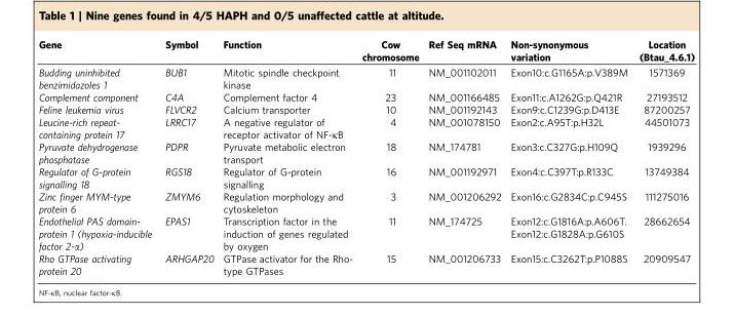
<table><thead><tr><td>Gene</td><td>Symbol</td><td>Function</td><td>Cow chromosome</td><td>Ref Seq mRNA</td><td>Non-synonymous variation</td><td>Location (Btau_4.6.1)</td></tr></thead><tbody><tr><td>Budding uninhibited benzimidazoles 1</td><td>BUB1</td><td>Mitotic spindle checkpoint kinase</td><td>11</td><td>NM_001102011</td><td>Exon10:c.G1165A:p.V389M</td><td>1571369</td></tr><tr><td>Complement component</td><td>C4A</td><td>Complement factor 4</td><td>23</td><td>NM_001166485</td><td>Exon11:c.A1262G:p.Q421R</td><td>27193512</td></tr><tr><td>Feline leukemia virus</td><td>FLVCR2</td><td>Calcium transporter</td><td>10</td><td>NM_001192143</td><td>Exon9:c.C1239G:p.D413E</td><td>87200257</td></tr><tr><td>Leucine-rich repeat- containing protein 17</td><td>LRRC17</td><td>A negative regulator of receptor activator of NF-κB</td><td>4</td><td>NM_001078150</td><td>Exon2:c.A95T:p.H32L</td><td>44501073</td></tr><tr><td>Pyruvate dehydrogenase phosphatase</td><td>PDPR</td><td>Pyruvate metabolic electron transport</td><td>18</td><td>NM_174781</td><td>Exon3:c.C327G:p.H109Q</td><td>1939296</td></tr><tr><td>Regulator of G-protein signalling 18</td><td>RGS18</td><td>Regulator of G-protein signalling</td><td>16</td><td>NM_001192971</td><td>Exon4:c.C397T:p.R133C</td><td>13749384</td></tr><tr><td>Zinc finger MYM-type protein 6</td><td>ZMYM6</td><td>Regulation morphology and cytoskeleton</td><td>3</td><td>NM_001206292</td><td>Exon16:c.G2834C:p.C945S</td><td>111275016</td></tr><tr><td>Endothelial PAS domain- protein 1 (hypoxia-inducible factor 2-α)</td><td>EPAS1</td><td>Transcription factor in the induction of genes regulated by oxygen</td><td>11</td><td>NM_174725</td><td>Exon12:c.G1816A:p.A606T. Exon12:c.G1828A:p.G610S</td><td>28662654</td></tr><tr><td>Rho GTPase activating protein 20</td><td>ARHGAP20</td><td>GTPase activator for the Rho- type GTPases</td><td>15</td><td>NM_001206733</td><td>Exon15:c.C3262T:p.P1088S</td><td>20909547</td></tr></tbody></table>